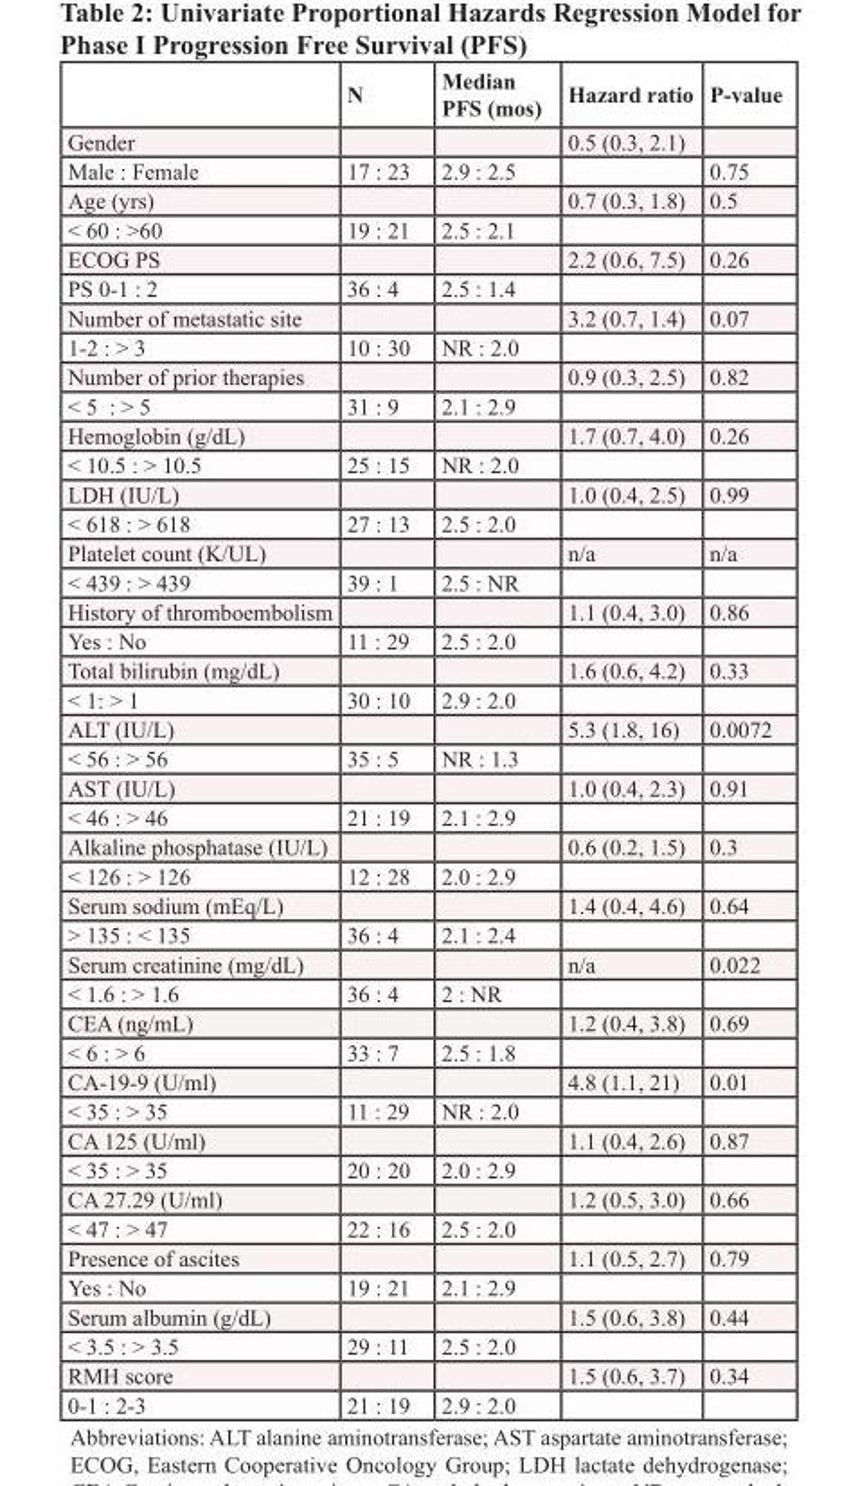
<table><thead><tr><td></td><td>N</td><td>Median PFS (mos)</td><td>Hazard ratio</td><td>P-value</td></tr></thead><tbody><tr><td>Gender</td><td></td><td></td><td>0.5 (0.3, 2.1)</td><td></td></tr><tr><td>Male : Female</td><td>17 : 23</td><td>2.9 : 2.5</td><td></td><td>0.75</td></tr><tr><td>Age (yrs)</td><td></td><td></td><td>0.7 (0.3, 1.8)</td><td>0.5</td></tr><tr><td>&lt; 60 : &gt;60</td><td>19 : 21</td><td>2.5 : 2.1</td><td></td><td></td></tr><tr><td>ECOG PS</td><td></td><td></td><td>2.2 (0.6, 7.5)</td><td>0.26</td></tr><tr><td>PS 0-1 : 2</td><td>36 : 4</td><td>2.5 : 1.4</td><td></td><td></td></tr><tr><td>Number of metastatic site</td><td></td><td></td><td>3.2 (0.7, 1.4)</td><td>0.07</td></tr><tr><td>1-2 : &gt; 3</td><td>10 : 30</td><td>NR : 2.0</td><td></td><td></td></tr><tr><td>Number of prior therapies</td><td></td><td></td><td>0.9 (0.3, 2.5)</td><td>0.82</td></tr><tr><td>&lt; 5 : &gt; 5</td><td>31 : 9</td><td>2.1 : 2.9</td><td></td><td></td></tr><tr><td>Hemoglobin (g/dL)</td><td></td><td></td><td>1.7 (0.7, 4.0)</td><td>0.26</td></tr><tr><td>&lt; 10.5 : &gt; 10.5</td><td>25 : 15</td><td>NR : 2.0</td><td></td><td></td></tr><tr><td>LDH (IU/L)</td><td></td><td></td><td>1.0 (0.4, 2.5)</td><td>0.99</td></tr><tr><td>&lt; 618 : &gt; 618</td><td>27 : 13</td><td>2.5 : 2.0</td><td></td><td></td></tr><tr><td>Platelet count (K/UL)</td><td></td><td></td><td>n/a</td><td>n/a</td></tr><tr><td>&lt; 439 : &gt; 439</td><td>39 : 1</td><td>2.5 : NR</td><td></td><td></td></tr><tr><td>History of thromboembolism</td><td></td><td></td><td>1.1 (0.4, 3.0)</td><td>0.86</td></tr><tr><td>Yes : No</td><td>11 : 29</td><td>2.5 : 2.0</td><td></td><td></td></tr><tr><td>Total bilirubin (mg/dL)</td><td></td><td></td><td>1.6 (0.6, 4.2)</td><td>0.33</td></tr><tr><td>&lt; 1: &gt; 1</td><td>30 : 10</td><td>2.9 : 2.0</td><td></td><td></td></tr><tr><td>ALT (IU/L)</td><td></td><td></td><td>5.3 (1.8, 16)</td><td>0.0072</td></tr><tr><td>&lt; 56 : &gt; 56</td><td>35 : 5</td><td>NR : 1.3</td><td></td><td></td></tr><tr><td>AST (IU/L)</td><td></td><td></td><td>1.0 (0.4, 2.3)</td><td>0.91</td></tr><tr><td>&lt; 46 : &gt; 46</td><td>21 : 19</td><td>2.1 : 2.9</td><td></td><td></td></tr><tr><td>Alkaline phosphatase (IU/L)</td><td></td><td></td><td>0.6 (0.2, 1.5)</td><td>0.3</td></tr><tr><td>&lt; 126 : &gt; 126</td><td>12 : 28</td><td>2.0 : 2.9</td><td></td><td></td></tr><tr><td>Serum sodium (mEq/L)</td><td></td><td></td><td>1.4 (0.4, 4.6)</td><td>0.64</td></tr><tr><td>&gt; 135 : &lt; 135</td><td>36 : 4</td><td>2.1 : 2.4</td><td></td><td></td></tr><tr><td>Serum creatinine (mg/dL)</td><td></td><td></td><td>n/a</td><td>0.022</td></tr><tr><td>&lt; 1.6 : &gt; 1.6</td><td>36 : 4</td><td>2 : NR</td><td></td><td></td></tr><tr><td>CEA (ng/mL)</td><td></td><td></td><td>1.2 (0.4, 3.8)</td><td>0.69</td></tr><tr><td>&lt; 6 : &gt; 6</td><td>33 : 7</td><td>2.5 : 1.8</td><td></td><td></td></tr><tr><td>CA-19-9 (U/ml)</td><td></td><td></td><td>4.8 (1.1, 21)</td><td>0.01</td></tr><tr><td>&lt; 35 : &gt; 35</td><td>11 : 29</td><td>NR : 2.0</td><td></td><td></td></tr><tr><td>CA 125 (U/ml)</td><td></td><td></td><td>1.1 (0.4, 2.6)</td><td>0.87</td></tr><tr><td>&lt; 35 : &gt; 35</td><td>20 : 20</td><td>2.0 : 2.9</td><td></td><td></td></tr><tr><td>CA 27.29 (U/ml)</td><td></td><td></td><td>1.2 (0.5, 3.0)</td><td>0.66</td></tr><tr><td>&lt; 47 : &gt; 47</td><td>22 : 16</td><td>2.5 : 2.0</td><td></td><td></td></tr><tr><td>Presence of ascites</td><td></td><td></td><td>1.1 (0.5, 2.7)</td><td>0.79</td></tr><tr><td>Yes : No</td><td>19 : 21</td><td>2.1 : 2.9</td><td></td><td></td></tr><tr><td>Serum albumin (g/dL)</td><td></td><td></td><td>1.5 (0.6, 3.8)</td><td>0.44</td></tr><tr><td>&lt; 3.5 : &gt; 3.5</td><td>29 : 11</td><td>2.5 : 2.0</td><td></td><td></td></tr><tr><td>RMH score</td><td></td><td></td><td>1.5 (0.6, 3.7)</td><td>0.34</td></tr><tr><td>0-1 : 2-3</td><td>21 : 19</td><td>2.9 : 2.0</td><td></td><td></td></tr></tbody></table>